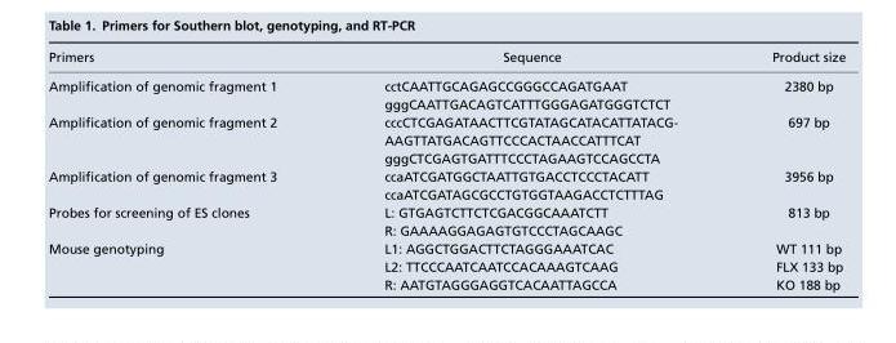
<table><thead><tr><td>Primers</td><td>Sequence</td><td>Product size</td></tr></thead><tbody><tr><td>Amplification of genomic fragment 1</td><td>cctCAATTGCAGAGCCGGGCCAGATGAAT gggCAATTGACAGTCATTTGGGAGATGGGTCTCT</td><td>2380 bp</td></tr><tr><td>Amplification of genomic fragment 2</td><td>cccCTCGAGATAACTTCGTATAGCATACATTATACG- AAGTTATGACAGTTCCCACTAACCATTTCAT gggCTCGAGTGATTTCCCTAGAAGTCCAGCCTA</td><td>697 bp</td></tr><tr><td>Amplification of genomic fragment 3</td><td>ccaATCGATGGCTAATTGTGACCTCCCTACATT ccaATCGATAGCGCCTGTGGTAAGACCTCTTTAG</td><td>3956 bp</td></tr><tr><td>Probes for screening of ES clones</td><td>L: GTGAGTCTTCTCGACGGCAAATCTT R: GAAAAGGAGAGTGTCCCTAGCAAGC</td><td>813 bp</td></tr><tr><td>Mouse genotyping</td><td>L1: AGGCTGGACTTCTAGGGAAATCAC L2: TTCCCAATCAATCCACAAAGTCAAG R: AATGTAGGGAGGTCACAATTAGCCA</td><td>WT 111 bp FLX 133 bp KO 188 bp</td></tr></tbody></table>